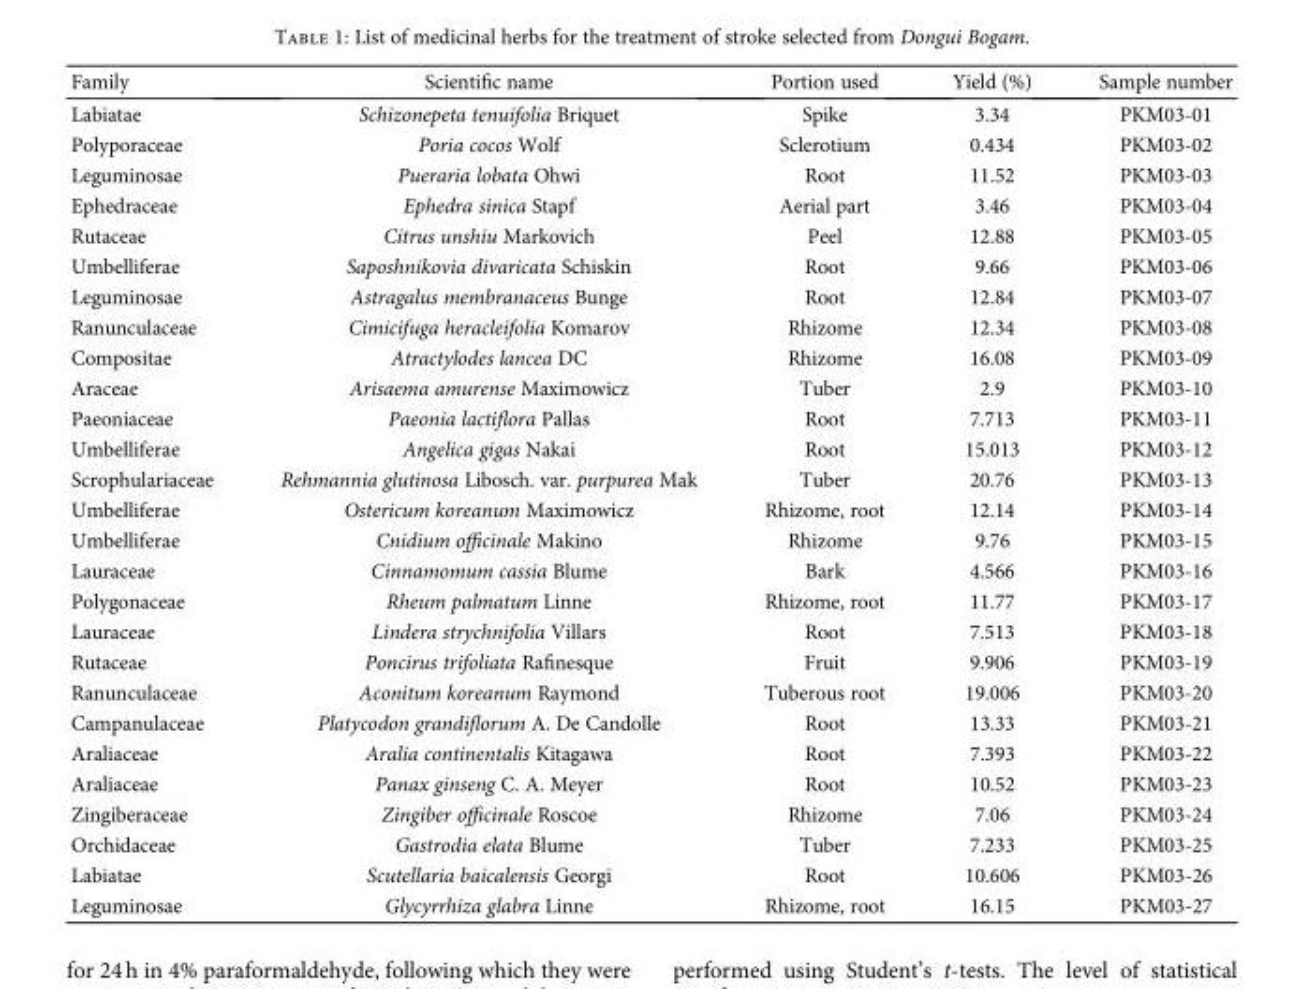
<table><thead><tr><td>Family</td><td>Scientific name</td><td>Portion used</td><td>Yield (%)</td><td>Sample number</td></tr></thead><tbody><tr><td>Labiatae</td><td>Schizonepeta tenuifolia Briquet</td><td>Spike</td><td>3.34</td><td>PKM03-01</td></tr><tr><td>Polyporaceae</td><td>Poria cocos Wolf</td><td>Sclerotium</td><td>0.434</td><td>PKM03-02</td></tr><tr><td>Leguminosae</td><td>Pueraria lobata Ohwi</td><td>Root</td><td>11.52</td><td>PKM03-03</td></tr><tr><td>Ephedraceae</td><td>Ephedra sinica Stapf</td><td>Aerial part</td><td>3.46</td><td>PKM03-04</td></tr><tr><td>Rutaceae</td><td>Citrus unshiu Markovich</td><td>Peel</td><td>12.88</td><td>PKM03-05</td></tr><tr><td>Umbelliferae</td><td>Saposhnikovia divaricata Schiskin</td><td>Root</td><td>9.66</td><td>PKM03-06</td></tr><tr><td>Leguminosae</td><td>Astragalus membranaceus Bunge</td><td>Root</td><td>12.84</td><td>PKM03-07</td></tr><tr><td>Ranunculaceae</td><td>Cimicifuga heracleifolia Komarov</td><td>Rhizome</td><td>12.34</td><td>PKM03-08</td></tr><tr><td>Compositae</td><td>Atractylodes lancea DC</td><td>Rhizome</td><td>16.08</td><td>PKM03-09</td></tr><tr><td>Araceae</td><td>Arisaema amurense Maximowicz</td><td>Tuber</td><td>2.9</td><td>PKM03-10</td></tr><tr><td>Paeoniaceae</td><td>Paeonia lactiflora Pallas</td><td>Root</td><td>7.713</td><td>PKM03-11</td></tr><tr><td>Umbelliferae</td><td>Angelica gigas Nakai</td><td>Root</td><td>15.013</td><td>PKM03-12</td></tr><tr><td>Scrophulariaceae</td><td>Rehmannia glutinosa Libosch. var. purpurea Mak</td><td>Tuber</td><td>20.76</td><td>PKM03-13</td></tr><tr><td>Umbelliferae</td><td>Ostericum koreanum Maximowicz</td><td>Rhizome, root</td><td>12.14</td><td>PKM03-14</td></tr><tr><td>Umbelliferae</td><td>Cnidium officinale Makino</td><td>Rhizome</td><td>9.76</td><td>PKM03-15</td></tr><tr><td>Lauraceae</td><td>Cinnamomum cassia Blume</td><td>Bark</td><td>4.566</td><td>PKM03-16</td></tr><tr><td>Polygonaceae</td><td>Rheum palmatum Linne</td><td>Rhizome, root</td><td>11.77</td><td>PKM03-17</td></tr><tr><td>Lauraceae</td><td>Lindera strychnifolia Villars</td><td>Root</td><td>7.513</td><td>PKM03-18</td></tr><tr><td>Rutaceae</td><td>Poncirus trifoliata Rafinesque</td><td>Fruit</td><td>9.906</td><td>PKM03-19</td></tr><tr><td>Ranunculaceae</td><td>Aconitum koreanum Raymond</td><td>Tuberous root</td><td>19.006</td><td>PKM03-20</td></tr><tr><td>Campanulaceae</td><td>Platycodon grandiflorum A. De Candolle</td><td>Root</td><td>13.33</td><td>PKM03-21</td></tr><tr><td>Araliaceae</td><td>Aralia continentalis Kitagawa</td><td>Root</td><td>7.393</td><td>PKM03-22</td></tr><tr><td>Araliaceae</td><td>Panax ginseng C. A. Meyer</td><td>Root</td><td>10.52</td><td>PKM03-23</td></tr><tr><td>Zingiberaceae</td><td>Zingiber officinale Roscoe</td><td>Rhizome</td><td>7.06</td><td>PKM03-24</td></tr><tr><td>Orchidaceae</td><td>Gastrodia elata Blume</td><td>Tuber</td><td>7.233</td><td>PKM03-25</td></tr><tr><td>Labiatae</td><td>Scutellaria baicalensis Georgi</td><td>Root</td><td>10.606</td><td>PKM03-26</td></tr><tr><td>Leguminosae</td><td>Glycyrrhiza glabra Linne</td><td>Rhizome, root</td><td>16.15</td><td>PKM03-27</td></tr></tbody></table>